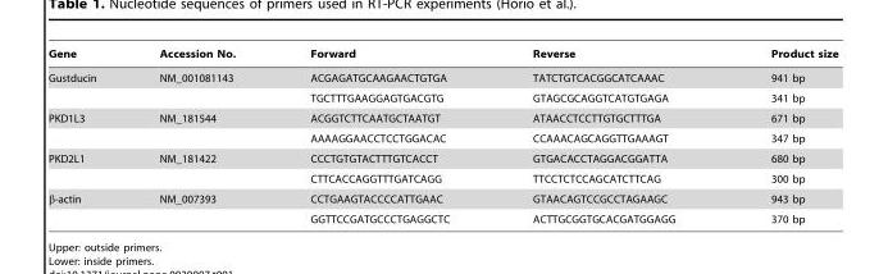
<table><thead><tr><td>Gene</td><td>Accession No.</td><td>Forward</td><td>Reverse</td><td>Product size</td></tr></thead><tbody><tr><td rowspan="2">Gustducin</td><td>NM_001081143</td><td>ACGAGATGCAAGAACTGTGA</td><td>TATCTGTCACGGCATCAAAC</td><td>941 bp</td></tr><tr><td></td><td>TGCTTTGAAGGAGTGACGTG</td><td>GTAGCGCAGGTCATGTGAGA</td><td>341 bp</td></tr><tr><td rowspan="2">PKD1L3</td><td>NM_181544</td><td>ACGGTCTTCAATGCTAATGT</td><td>ATAACCTCCTTGTGCTTTGA</td><td>671 bp</td></tr><tr><td></td><td>AAAAGGAACCTCCTGGACAC</td><td>CCAAACAGCAGGTTGAAAGT</td><td>347 bp</td></tr><tr><td rowspan="2">PKD2L1</td><td>NM_181422</td><td>CCCTGTGTACTTTGTCACCT</td><td>GTGACACCTAGGACGGATTA</td><td>680 bp</td></tr><tr><td></td><td>CTTCACCAGGTTTGATCAGG</td><td>TTCCTCTCCAGCATCTTCAG</td><td>300 bp</td></tr><tr><td rowspan="2">β-actin</td><td>NM_007393</td><td>CCTGAAGTACCCCATTGAAC</td><td>GTAACAGTCCGCCTAGAAGC</td><td>943 bp</td></tr><tr><td></td><td>GGTTCCGATGCCCTGAGGCTC</td><td>ACTTGCGGTGCACGATGGAGG</td><td>370 bp</td></tr></tbody></table>